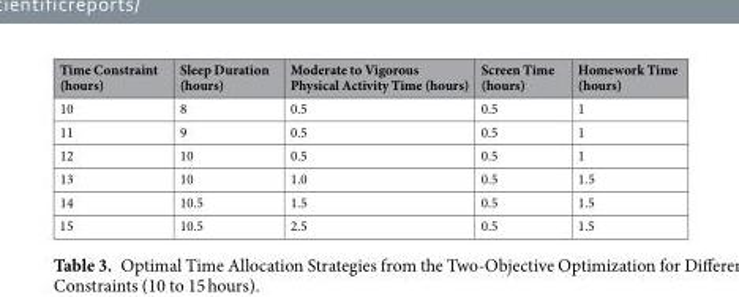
<table><thead><tr><td>Time Constraint (hours)</td><td>Sleep Duration (hours)</td><td>Moderate to Vigorous Physical Activity Time (hours)</td><td>Screen Time (hours)</td><td>Homework Time (hours)</td></tr></thead><tbody><tr><td>10</td><td>8</td><td>0.5</td><td>0.5</td><td>1</td></tr><tr><td>11</td><td>9</td><td>0.5</td><td>0.5</td><td>1</td></tr><tr><td>12</td><td>10</td><td>0.5</td><td>0.5</td><td>1</td></tr><tr><td>13</td><td>10</td><td>1.0</td><td>0.5</td><td>1.5</td></tr><tr><td>14</td><td>10.5</td><td>1.5</td><td>0.5</td><td>1.5</td></tr><tr><td>15</td><td>10.5</td><td>2.5</td><td>0.5</td><td>1.5</td></tr></tbody></table>